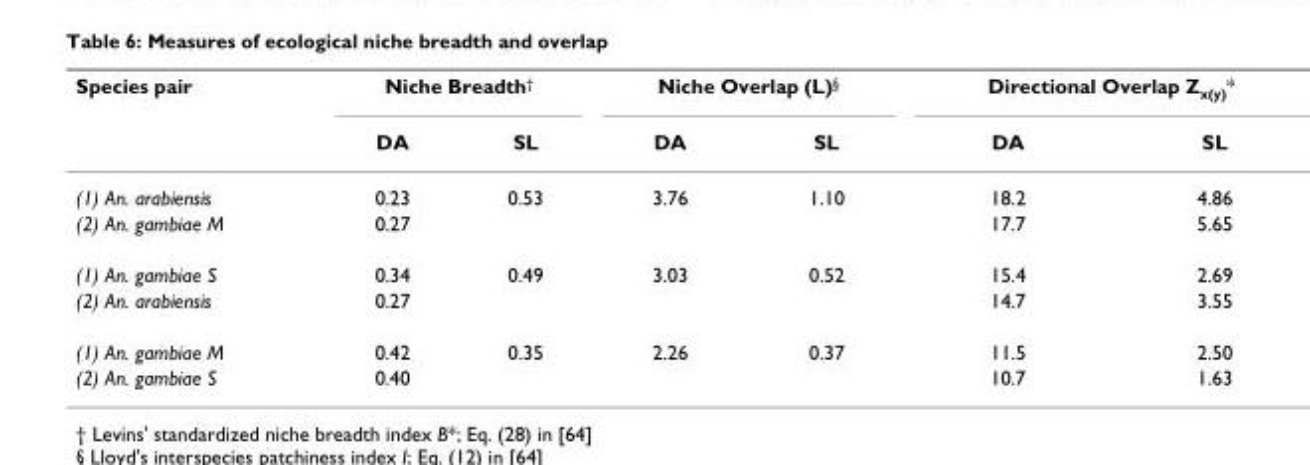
<table><thead><tr><td rowspan="2">Species pair</td><td colspan="2">Niche Breadth<sup>†</sup></td><td colspan="2">Niche Overlap (L)<sup>§</sup></td><td colspan="2">Directional Overlap Z<sub>x(y)</sub>*</td></tr><tr><td>DA</td><td>SL</td><td>DA</td><td>SL</td><td>DA</td><td>SL</td></tr></thead><tbody><tr><td>(1) An. arabiensis</td><td>0.23</td><td>0.53</td><td>3.76</td><td>1.10</td><td>18.2</td><td>4.86</td></tr><tr><td>(2) An. gambiae M</td><td>0.27</td><td></td><td></td><td></td><td>17.7</td><td>5.65</td></tr><tr><td>(1) An. gambiae S</td><td>0.34</td><td>0.49</td><td>3.03</td><td>0.52</td><td>15.4</td><td>2.69</td></tr><tr><td>(2) An. arabiensis</td><td>0.27</td><td></td><td></td><td></td><td>14.7</td><td>3.55</td></tr><tr><td>(1) An. gambiae M</td><td>0.42</td><td>0.35</td><td>2.26</td><td>0.37</td><td>11.5</td><td>2.50</td></tr><tr><td>(2) An. gambiae S</td><td>0.40</td><td></td><td></td><td></td><td>10.7</td><td>1.63</td></tr></tbody></table>